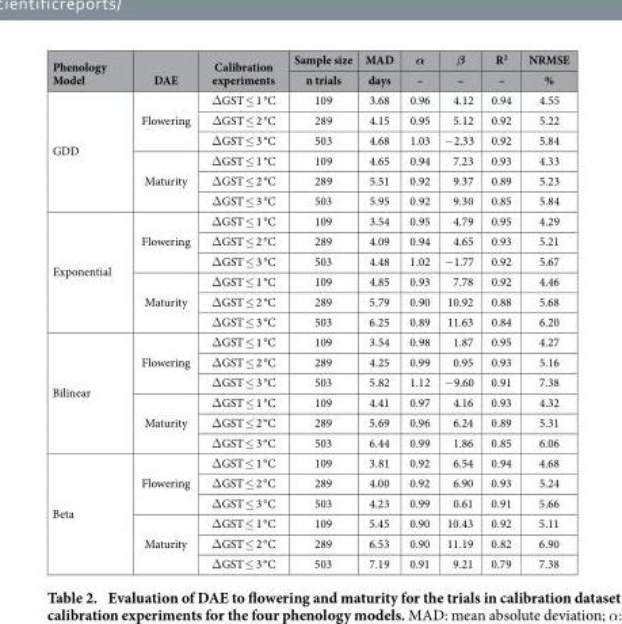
<table><thead><tr><td rowspan="2">Phenology Model</td><td rowspan="2">DAE</td><td rowspan="2">Calibration experiments</td><td rowspan="2">Sample size n trials</td><td rowspan="2">MAD days</td><td rowspan="2">α –</td><td rowspan="2">β –</td><td rowspan="2">R<sup>2</sup> –</td><td rowspan="2">NRMSE %</td></tr><tr></tr></thead><tbody><tr><td rowspan="6">GDD</td><td rowspan="3">Flowering</td><td>Δ GST ≤ 1 °C</td><td>109</td><td>3.68</td><td>0.96</td><td>4.12</td><td>0.94</td><td>4.55</td></tr><tr><td>Δ GST ≤ 2 °C</td><td>289</td><td>4.15</td><td>0.95</td><td>5.12</td><td>0.92</td><td>5.22</td></tr><tr><td>Δ GST ≤ 3 °C</td><td>503</td><td>4.68</td><td>1.03</td><td>−2.33</td><td>0.92</td><td>5.84</td></tr><tr><td rowspan="3">Maturity</td><td>Δ GST ≤ 1 °C</td><td>109</td><td>4.65</td><td>0.94</td><td>7.23</td><td>0.93</td><td>4.33</td></tr><tr><td>Δ GST ≤ 2 °C</td><td>289</td><td>5.51</td><td>0.92</td><td>9.37</td><td>0.89</td><td>5.23</td></tr><tr><td>Δ GST ≤ 3 °C</td><td>503</td><td>5.95</td><td>0.92</td><td>9.30</td><td>0.85</td><td>5.84</td></tr><tr><td rowspan="6">Exponential</td><td rowspan="3">Flowering</td><td>Δ GST ≤ 1 °C</td><td>109</td><td>3.54</td><td>0.95</td><td>4.79</td><td>0.95</td><td>4.29</td></tr><tr><td>Δ GST ≤ 2 °C</td><td>289</td><td>4.09</td><td>0.94</td><td>4.65</td><td>0.93</td><td>5.21</td></tr><tr><td>Δ GST ≤ 3 °C</td><td>503</td><td>4.48</td><td>1.02</td><td>−1.77</td><td>0.92</td><td>5.67</td></tr><tr><td rowspan="3">Maturity</td><td>Δ GST ≤ 1 °C</td><td>109</td><td>4.85</td><td>0.93</td><td>7.78</td><td>0.92</td><td>4.46</td></tr><tr><td>Δ GST ≤ 2 °C</td><td>289</td><td>5.79</td><td>0.90</td><td>10.92</td><td>0.88</td><td>5.68</td></tr><tr><td>Δ GST ≤ 3 °C</td><td>503</td><td>6.25</td><td>0.89</td><td>11.63</td><td>0.84</td><td>6.20</td></tr><tr><td rowspan="6">Bilinear</td><td rowspan="3">Flowering</td><td>Δ GST ≤ 1 °C</td><td>109</td><td>3.54</td><td>0.98</td><td>1.87</td><td>0.95</td><td>4.27</td></tr><tr><td>Δ GST ≤ 2 °C</td><td>289</td><td>4.25</td><td>0.99</td><td>0.95</td><td>0.93</td><td>5.16</td></tr><tr><td>Δ GST ≤ 3 °C</td><td>503</td><td>5.82</td><td>1.12</td><td>−9.60</td><td>0.91</td><td>7.38</td></tr><tr><td rowspan="3">Maturity</td><td>Δ GST ≤ 1 °C</td><td>109</td><td>4.41</td><td>0.97</td><td>4.16</td><td>0.93</td><td>4.32</td></tr><tr><td>Δ GST ≤ 2 °C</td><td>289</td><td>5.69</td><td>0.96</td><td>6.24</td><td>0.89</td><td>5.31</td></tr><tr><td>Δ GST ≤ 3 °C</td><td>503</td><td>6.44</td><td>0.99</td><td>1.86</td><td>0.85</td><td>6.06</td></tr><tr><td rowspan="6">Beta</td><td rowspan="3">Flowering</td><td>Δ GST ≤ 1 °C</td><td>109</td><td>3.81</td><td>0.92</td><td>6.54</td><td>0.94</td><td>4.68</td></tr><tr><td>Δ GST ≤ 2 °C</td><td>289</td><td>4.00</td><td>0.92</td><td>6.90</td><td>0.93</td><td>5.24</td></tr><tr><td>Δ GST ≤ 3 °C</td><td>503</td><td>4.23</td><td>0.99</td><td>0.61</td><td>0.91</td><td>5.66</td></tr><tr><td rowspan="3">Maturity</td><td>Δ GST ≤ 1 °C</td><td>109</td><td>5.45</td><td>0.90</td><td>10.43</td><td>0.92</td><td>5.11</td></tr><tr><td>Δ GST ≤ 2 °C</td><td>289</td><td>6.53</td><td>0.90</td><td>11.19</td><td>0.82</td><td>6.90</td></tr><tr><td>Δ GST ≤ 3 °C</td><td>503</td><td>7.19</td><td>0.91</td><td>9.21</td><td>0.79</td><td>7.38</td></tr></tbody></table>